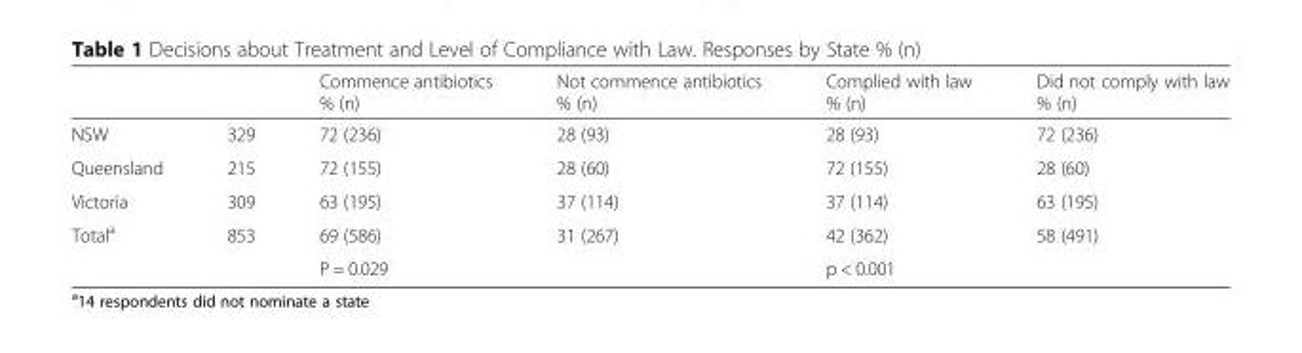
<table><thead><tr><td></td><td></td><td>Commence antibiotics % (n)</td><td>Not commence antibiotics % (n)</td><td>Complied with law % (n)</td><td>Did not comply with law % (n)</td></tr></thead><tbody><tr><td>NSW</td><td>329</td><td>72 (236)</td><td>28 (93)</td><td>28 (93)</td><td>72 (236)</td></tr><tr><td>Queensland</td><td>215</td><td>72 (155)</td><td>28 (60)</td><td>72 (155)</td><td>28 (60)</td></tr><tr><td>Victoria</td><td>309</td><td>63 (195)</td><td>37 (114)</td><td>37 (114)</td><td>63 (195)</td></tr><tr><td rowspan="2">Total<sup>a</sup></td><td>853</td><td>69 (586)</td><td>31 (267)</td><td>42 (362)</td><td>58 (491)</td></tr><tr><td></td><td colspan="2">P = 0.029</td><td colspan="2">p &lt; 0.001</td></tr></tbody></table>